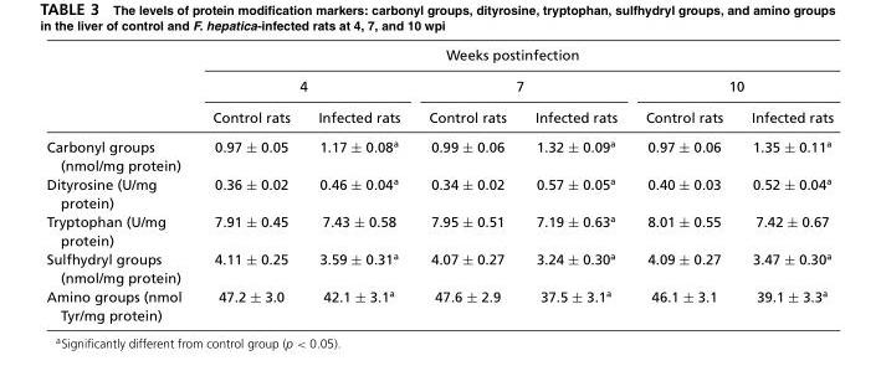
<table><thead><tr><td rowspan="3"></td><td colspan="6">Weeks postinfection</td></tr><tr><td colspan="2">4</td><td colspan="2">7</td><td colspan="2">10</td></tr><tr><td>Control rats</td><td>Infected rats</td><td>Control rats</td><td>Infected rats</td><td>Control rats</td><td>Infected rats</td></tr></thead><tbody><tr><td>Carbonyl groups (nmol/mg protein)</td><td>0.97 ± 0.05</td><td>1.17 ± 0.08<sup>a</sup></td><td>0.99 ± 0.06</td><td>1.32 ± 0.09<sup>a</sup></td><td>0.97 ± 0.06</td><td>1.35 ± 0.11<sup>a</sup></td></tr><tr><td>Dityrosine (U/mg protein)</td><td>0.36 ± 0.02</td><td>0.46 ± 0.04<sup>a</sup></td><td>0.34 ± 0.02</td><td>0.57 ± 0.05<sup>a</sup></td><td>0.40 ± 0.03</td><td>0.52 ± 0.04<sup>a</sup></td></tr><tr><td>Tryptophan (U/mg protein)</td><td>7.91 ± 0.45</td><td>7.43 ± 0.58</td><td>7.95 ± 0.51</td><td>7.19 ± 0.63<sup>a</sup></td><td>8.01 ± 0.55</td><td>7.42 ± 0.67</td></tr><tr><td>Sulfhydryl groups (nmol/mg protein)</td><td>4.11 ± 0.25</td><td>3.59 ± 0.31<sup>a</sup></td><td>4.07 ± 0.27</td><td>3.24 ± 0.30<sup>a</sup></td><td>4.09 ± 0.27</td><td>3.47 ± 0.30<sup>a</sup></td></tr><tr><td>Amino groups (nmol Tyr/mg protein)</td><td>47.2 ± 3.0</td><td>42.1 ± 3.1<sup>a</sup></td><td>47.6 ± 2.9</td><td>37.5 ± 3.1<sup>a</sup></td><td>46.1 ± 3.1</td><td>39.1 ± 3.3<sup>a</sup></td></tr></tbody></table>